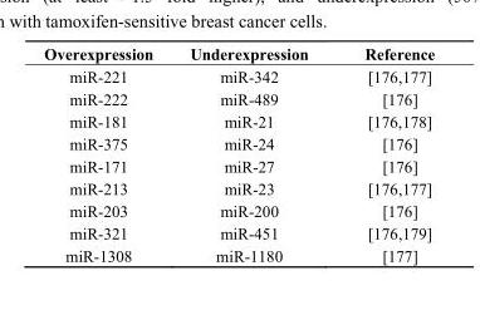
<table><thead><tr><td>Overexpression</td><td>Underexpression</td><td>Reference</td></tr></thead><tbody><tr><td>miR-221</td><td>miR-342</td><td>[176,177]</td></tr><tr><td>miR-222</td><td>miR-489</td><td>[176]</td></tr><tr><td>miR-181</td><td>miR-21</td><td>[176,178]</td></tr><tr><td>miR-375</td><td>miR-24</td><td>[176]</td></tr><tr><td>miR-171</td><td>miR-27</td><td>[176]</td></tr><tr><td>miR-213</td><td>miR-23</td><td>[176,177]</td></tr><tr><td>miR-203</td><td>miR-200</td><td>[176]</td></tr><tr><td>miR-321</td><td>miR-451</td><td>[176,179]</td></tr><tr><td>miR-1308</td><td>miR-1180</td><td>[177]</td></tr></tbody></table>